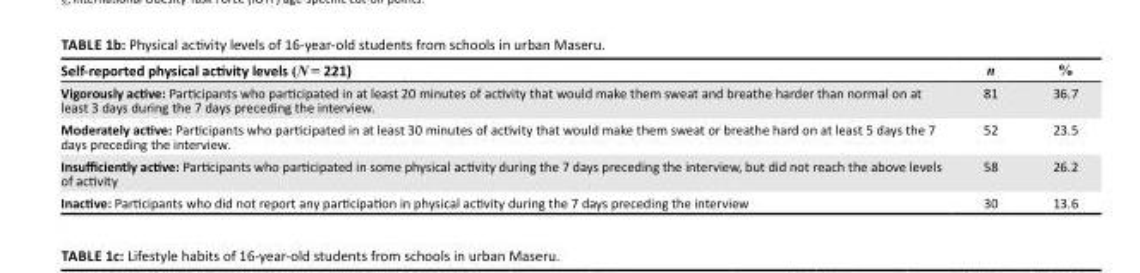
<table><thead><tr><td>Self-reported physical activity levels (N = 221)</td><td>n</td><td>%</td></tr></thead><tbody><tr><td>Vigorously active: Participants who participated in at least 20 minutes of activity that would make them sweat and breathe harder than normal on at least 3 days during the 7 days preceding the interview.</td><td>81</td><td>36.7</td></tr><tr><td>Moderately active: Participants who participated in at least 30 minutes of activity that would make them sweat or breathe hard on at least 5 days the 7 days preceding the interview.</td><td>52</td><td>23.5</td></tr><tr><td>Insufficiently active: Participants who participated in some physical activity during the 7 days preceding the interview, but did not reach the above levels of activity</td><td>58</td><td>26.2</td></tr><tr><td>Inactive: Participants who did not report any participation in physical activity during the 7 days preceding the interview</td><td>30</td><td>13.6</td></tr></tbody></table>